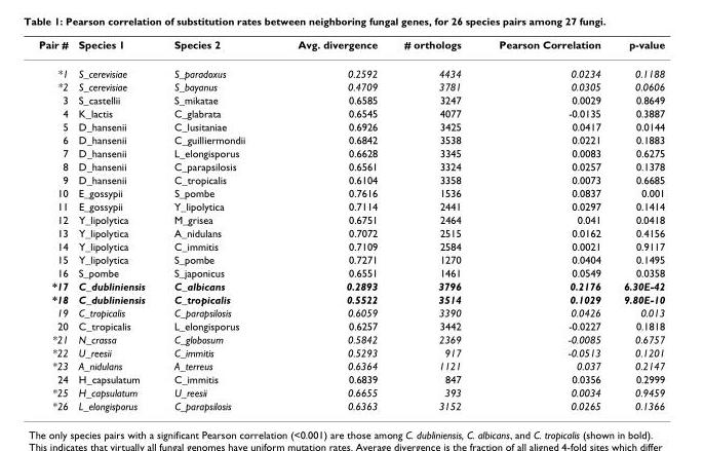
<table><thead><tr><td>Pair #</td><td>Species 1</td><td>Species 2</td><td>Avg. divergence</td><td># orthologs</td><td>Pearson Correlation</td><td>p-value</td></tr></thead><tbody><tr><td>*1</td><td>S_cerevisiae</td><td>S_paradoxus</td><td>0.2592</td><td>4434</td><td>0.0234</td><td>0.1188</td></tr><tr><td>*2</td><td>S_cerevisiae</td><td>S_bayanus</td><td>0.4709</td><td>3781</td><td>0.0305</td><td>0.0606</td></tr><tr><td>3</td><td>S_castellii</td><td>S_mikatae</td><td>0.6585</td><td>3247</td><td>0.0029</td><td>0.8649</td></tr><tr><td>4</td><td>K_lactis</td><td>C_glabrata</td><td>0.6545</td><td>4077</td><td>-0.0135</td><td>0.3887</td></tr><tr><td>5</td><td>D_hansenii</td><td>C_lusitaniae</td><td>0.6926</td><td>3425</td><td>0.0417</td><td>0.0144</td></tr><tr><td>6</td><td>D_hansenii</td><td>C_guilliermondii</td><td>0.6842</td><td>3538</td><td>0.0221</td><td>0.1883</td></tr><tr><td>7</td><td>D_hansenii</td><td>L_elongisporus</td><td>0.6628</td><td>3345</td><td>0.0083</td><td>0.6275</td></tr><tr><td>8</td><td>D_hansenii</td><td>C_parapsilosis</td><td>0.6561</td><td>3324</td><td>0.0257</td><td>0.1378</td></tr><tr><td>9</td><td>D_hansenii</td><td>C_tropicalis</td><td>0.6104</td><td>3358</td><td>0.0073</td><td>0.6685</td></tr><tr><td>10</td><td>E_gossypii</td><td>S_pombe</td><td>0.7616</td><td>1536</td><td>0.0837</td><td>0.001</td></tr><tr><td>11</td><td>E_gossypii</td><td>Y_lipolytica</td><td>0.7114</td><td>2441</td><td>0.0297</td><td>0.1414</td></tr><tr><td>12</td><td>Y_lipolytica</td><td>M_grisea</td><td>0.6751</td><td>2464</td><td>0.041</td><td>0.0418</td></tr><tr><td>13</td><td>Y_lipolytica</td><td>A_nidulans</td><td>0.7072</td><td>2515</td><td>0.0162</td><td>0.4156</td></tr><tr><td>14</td><td>Y_lipolytica</td><td>C_immitis</td><td>0.7109</td><td>2584</td><td>0.0021</td><td>0.9117</td></tr><tr><td>15</td><td>Y_lipolytica</td><td>S_pombe</td><td>0.7271</td><td>1270</td><td>0.0404</td><td>0.1495</td></tr><tr><td>16</td><td>S_pombe</td><td>S_japonicus</td><td>0.6551</td><td>1461</td><td>0.0549</td><td>0.0358</td></tr><tr><td>*17</td><td>C_dubliniensis</td><td>C_albicans</td><td>0.2893</td><td>3796</td><td>0.2176</td><td>6.30E-42</td></tr><tr><td>*18</td><td>C_dubliniensis</td><td>C_tropicalis</td><td>0.5522</td><td>3514</td><td>0.1029</td><td>9.80E-10</td></tr><tr><td>19</td><td>C_tropicalis</td><td>C_parapsilosis</td><td>0.6059</td><td>3390</td><td>0.0426</td><td>0.013</td></tr><tr><td>20</td><td>C_tropicalis</td><td>L_elongisporus</td><td>0.6257</td><td>3442</td><td>-0.0227</td><td>0.1818</td></tr><tr><td>*21</td><td>N_crassa</td><td>C_globosum</td><td>0.5842</td><td>2369</td><td>-0.0085</td><td>0.6757</td></tr><tr><td>*22</td><td>U_reesii</td><td>C_immitis</td><td>0.5293</td><td>917</td><td>-0.0513</td><td>0.1201</td></tr><tr><td>*23</td><td>A_nidulans</td><td>A_terreus</td><td>0.6364</td><td>1121</td><td>0.037</td><td>0.2147</td></tr><tr><td>24</td><td>H_capsulatum</td><td>C_immitis</td><td>0.6839</td><td>847</td><td>0.0356</td><td>0.2999</td></tr><tr><td>*25</td><td>H_capsulatum</td><td>U_reesii</td><td>0.6655</td><td>393</td><td>0.0034</td><td>0.9459</td></tr><tr><td>*26</td><td>L_elongisporus</td><td>C_parapsilosis</td><td>0.6363</td><td>3152</td><td>0.0265</td><td>0.1366</td></tr></tbody></table>